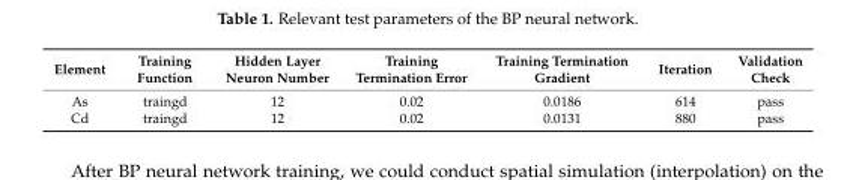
<table><thead><tr><td>Element</td><td>Training Function</td><td>Hidden Layer Neuron Number</td><td>Training Termination Error</td><td>Training Termination Gradient</td><td>Iteration</td><td>Validation Check</td></tr></thead><tbody><tr><td>As</td><td>traingd</td><td>12</td><td>0.02</td><td>0.0186</td><td>614</td><td>pass</td></tr><tr><td>Cd</td><td>traingd</td><td>12</td><td>0.02</td><td>0.0131</td><td>880</td><td>pass</td></tr></tbody></table>